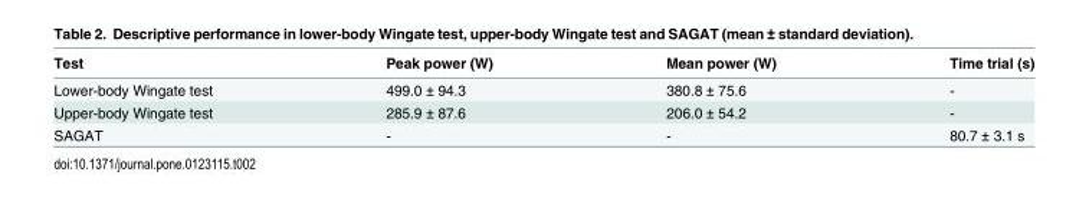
<table><thead><tr><td>Test</td><td>Peak power (W)</td><td>Mean power (W)</td><td>Time trial (s)</td></tr></thead><tbody><tr><td>Lower-body Wingate test</td><td>499.0 ± 94.3</td><td>380.8 ± 75.6</td><td>-</td></tr><tr><td>Upper-body Wingate test</td><td>285.9 ± 87.6</td><td>206.0 ± 54.2</td><td>-</td></tr><tr><td>SAGAT</td><td>-</td><td>-</td><td>80.7 ± 3.1 s</td></tr></tbody></table>